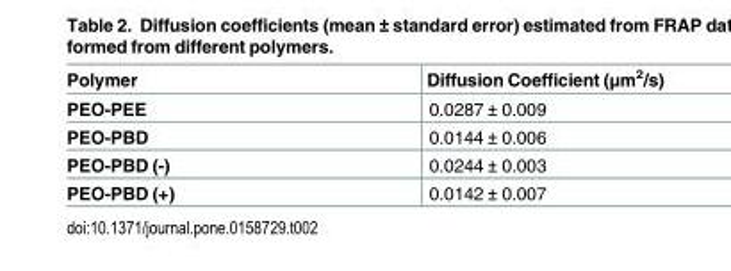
<table><thead><tr><td>Polymer</td><td>Diffusion Coefficient (μm<sup>2</sup>/s)</td></tr></thead><tbody><tr><td>PEO-PEE</td><td>0.0287 ± 0.009</td></tr><tr><td>PEO-PBD</td><td>0.0144 ± 0.006</td></tr><tr><td>PEO-PBD (-)</td><td>0.0244 ± 0.003</td></tr><tr><td>PEO-PBD (+)</td><td>0.0142 ± 0.007</td></tr></tbody></table>